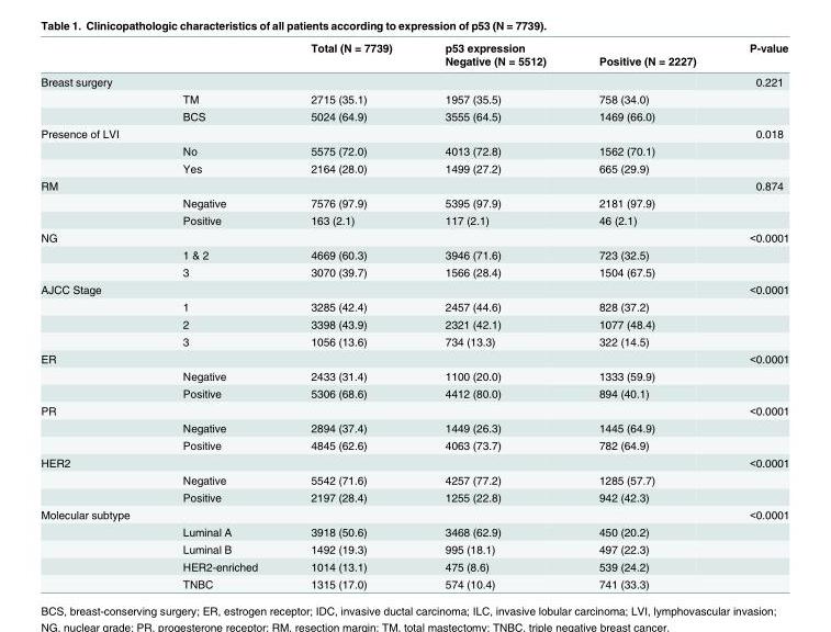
<table><thead><tr><td rowspan="2"></td><td rowspan="2"></td><td rowspan="2">Total (N = 7739)</td><td rowspan="2">p53 expression Negative (N = 5512)</td><td rowspan="2">Positive (N = 2227)</td><td rowspan="2">P-value</td></tr><tr></tr></thead><tbody><tr><td rowspan="3">Breast surgery</td><td></td><td></td><td></td><td></td><td>0.221</td></tr><tr><td>TM</td><td>2715 (35.1)</td><td>1957 (35.5)</td><td>758 (34.0)</td><td></td></tr><tr><td>BCS</td><td>5024 (64.9)</td><td>3555 (64.5)</td><td>1469 (66.0)</td><td></td></tr><tr><td rowspan="3">Presence of LVI</td><td></td><td></td><td></td><td></td><td>0.018</td></tr><tr><td>No</td><td>5575 (72.0)</td><td>4013 (72.8)</td><td>1562 (70.1)</td><td></td></tr><tr><td>Yes</td><td>2164 (28.0)</td><td>1499 (27.2)</td><td>665 (29.9)</td><td></td></tr><tr><td rowspan="3">RM</td><td></td><td></td><td></td><td></td><td>0.874</td></tr><tr><td>Negative</td><td>7576 (97.9)</td><td>5395 (97.9)</td><td>2181 (97.9)</td><td></td></tr><tr><td>Positive</td><td>163 (2.1)</td><td>117 (2.1)</td><td>46 (2.1)</td><td></td></tr><tr><td rowspan="3">NG</td><td></td><td></td><td></td><td></td><td>&lt;0.0001</td></tr><tr><td>1 &amp; 2</td><td>4669 (60.3)</td><td>3946 (71.6)</td><td>723 (32.5)</td><td></td></tr><tr><td>3</td><td>3070 (39.7)</td><td>1566 (28.4)</td><td>1504 (67.5)</td><td></td></tr><tr><td rowspan="4">AJCC Stage</td><td></td><td></td><td></td><td></td><td>&lt;0.0001</td></tr><tr><td>1</td><td>3285 (42.4)</td><td>2457 (44.6)</td><td>828 (37.2)</td><td></td></tr><tr><td>2</td><td>3398 (43.9)</td><td>2321 (42.1)</td><td>1077 (48.4)</td><td></td></tr><tr><td>3</td><td>1056 (13.6)</td><td>734 (13.3)</td><td>322 (14.5)</td><td></td></tr><tr><td rowspan="3">ER</td><td></td><td></td><td></td><td></td><td>&lt;0.0001</td></tr><tr><td>Negative</td><td>2433 (31.4)</td><td>1100 (20.0)</td><td>1333 (59.9)</td><td></td></tr><tr><td>Positive</td><td>5306 (68.6)</td><td>4412 (80.0)</td><td>894 (40.1)</td><td></td></tr><tr><td rowspan="3">PR</td><td></td><td></td><td></td><td></td><td>&lt;0.0001</td></tr><tr><td>Negative</td><td>2894 (37.4)</td><td>1449 (26.3)</td><td>1445 (64.9)</td><td></td></tr><tr><td>Positive</td><td>4845 (62.6)</td><td>4063 (73.7)</td><td>782 (64.9)</td><td></td></tr><tr><td rowspan="3">HER2</td><td></td><td></td><td></td><td></td><td>&lt;0.0001</td></tr><tr><td>Negative</td><td>5542 (71.6)</td><td>4257 (77.2)</td><td>1285 (57.7)</td><td></td></tr><tr><td>Positive</td><td>2197 (28.4)</td><td>1255 (22.8)</td><td>942 (42.3)</td><td></td></tr><tr><td rowspan="5">Molecular subtype</td><td></td><td></td><td></td><td></td><td>&lt;0.0001</td></tr><tr><td>Luminal A</td><td>3918 (50.6)</td><td>3468 (62.9)</td><td>450 (20.2)</td><td></td></tr><tr><td>Luminal B</td><td>1492 (19.3)</td><td>995 (18.1)</td><td>497 (22.3)</td><td></td></tr><tr><td>HER2-enriched</td><td>1014 (13.1)</td><td>475 (8.6)</td><td>539 (24.2)</td><td></td></tr><tr><td>TNBC</td><td>1315 (17.0)</td><td>574 (10.4)</td><td>741 (33.3)</td><td></td></tr></tbody></table>